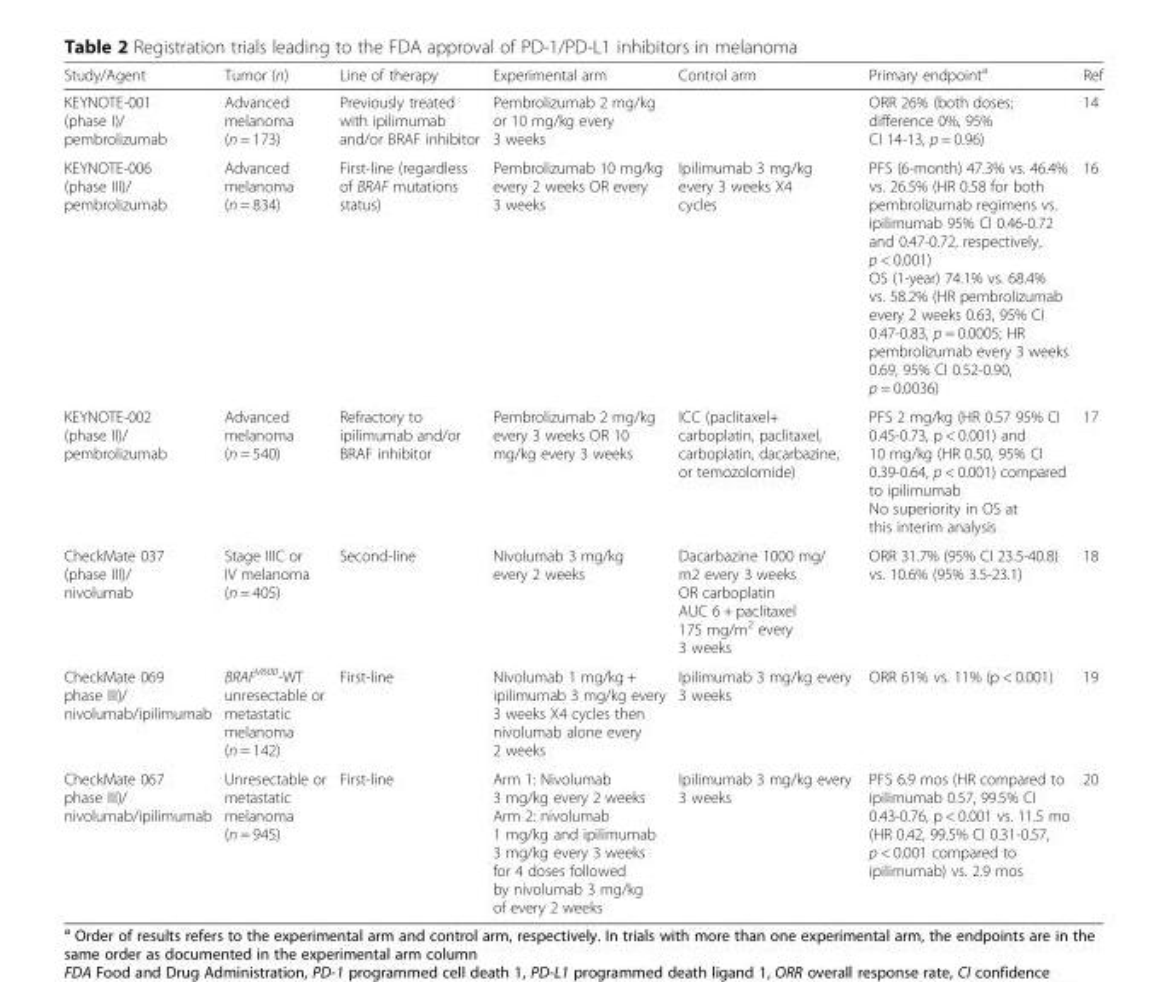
<table><thead><tr><td>Study/Agent</td><td>Tumor (n)</td><td>Line of therapy</td><td>Experimental arm</td><td>Control arm</td><td>Primary endpoint<sup>a</sup></td><td>Ref</td></tr></thead><tbody><tr><td>KEYNOTE-001 (phase I)/ pembrolizumab</td><td>Advanced melanoma (n = 173)</td><td>Previously treated with ipilimumab and/or BRAF inhibitor</td><td>Pembrolizumab 2 mg/kg or 10 mg/kg every 3 weeks</td><td></td><td>ORR 26% (both doses; difference 0%, 95% CI 14-13, p = 0.96)</td><td>14</td></tr><tr><td>KEYNOTE-006 (phase III)/ pembrolizumab</td><td>Advanced melanoma (n = 834)</td><td>First-line (regardless of BRAF mutations status)</td><td>Pembrolizumab 10 mg/kg every 2 weeks OR every 3 weeks</td><td>Ipilimumab 3 mg/kg every 3 weeks X4 cycles</td><td>PFS (6-month) 47.3% vs. 46.4% vs. 26.5% (HR 0.58 for both pembrolizumab regimens vs. ipilimumab 95% CI 0.46-0.72 and 0.47-0.72, respectively, p &lt; 0.001) OS (1-year) 74.1% vs. 68.4% vs. 58.2% (HR pembrolizumab every 2 weeks 0.63, 95% CI 0.47-0.83, p = 0.0005; HR pembrolizumab every 3 weeks 0.69, 95% CI 0.52-0.90, p = 0.0036)</td><td>16</td></tr><tr><td>KEYNOTE-002 (phase II)/ pembrolizumab</td><td>Advanced melanoma (n = 540)</td><td>Refractory to ipilimumab and/or BRAF inhibitor</td><td>Pembrolizumab 2 mg/kg every 3 weeks OR 10 mg/kg every 3 weeks</td><td>ICC (paclitaxel+ carboplatin, paclitaxel, carboplatin, dacarbazine, or temozolomide)</td><td>PFS 2 mg/kg (HR 0.57 95% CI 0.45-0.73, p &lt; 0.001) and 10 mg/kg (HR 0.50, 95% CI 0.39-0.64, p &lt; 0.001) compared to ipilimumab No superiority in OS at this interim analysis</td><td>17</td></tr><tr><td>CheckMate 037 (phase III)/ nivolumab</td><td>Stage IIIC or IV melanoma (n = 405)</td><td>Second-line</td><td>Nivolumab 3 mg/kg every 2 weeks</td><td>Dacarbazine 1000 mg/ m2 every 3 weeks OR carboplatin AUC 6 + paclitaxel 175 mg/m<sup>2</sup> every 3 weeks</td><td>ORR 31.7% (95% CI 23.5-40.8) vs. 10.6% (95% 3.5-23.1)</td><td>18</td></tr><tr><td>CheckMate 069 phase III)/ nivolumab/ipilimumab</td><td>BRAF<sup>V600</sup>-WT unresectable or metastatic melanoma (n = 142)</td><td>First-line</td><td>Nivolumab 1 mg/kg + ipilimumab 3 mg/kg every 3 weeks X4 cycles then nivolumab alone every 2 weeks</td><td>Ipilimumab 3 mg/kg every 3 weeks</td><td>ORR 61% vs. 11% (p &lt; 0.001)</td><td>19</td></tr><tr><td>CheckMate 067 phase III)/ nivolumab/ipilimumab</td><td>Unresectable or metastatic melanoma (n = 945)</td><td>First-line</td><td>Arm 1: Nivolumab 3 mg/kg every 2 weeks Arm 2: nivolumab 1 mg/kg and ipilimumab 3 mg/kg every 3 weeks for 4 doses followed by nivolumab 3 mg/kg of every 2 weeks</td><td>Ipilimumab 3 mg/kg every 3 weeks</td><td>PFS 6.9 mos (HR compared to ipilimumab 0.57, 99.5% CI 0.43-0.76, p &lt; 0.001 vs. 11.5 mo (HR 0.42, 99.5% CI 0.31-0.57, p &lt; 0.001 compared to ipilimumab) vs. 2.9 mos</td><td>20</td></tr></tbody></table>